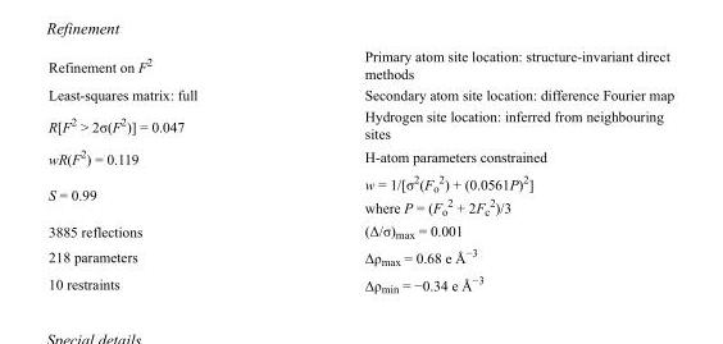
<table><tbody><tr><td>Refinement on F<sup>2</sup></td><td>Primary atom site location: structure-invariant direct methods</td></tr><tr><td>Least-squares matrix: full</td><td>Secondary atom site location: difference Fourier map</td></tr><tr><td>R[F<sup>2</sup> &gt; 2σ(F<sup>2</sup>)] = 0.047</td><td>Hydrogen site location: inferred from neighbouring sites</td></tr><tr><td>wR(F<sup>2</sup>) = 0.119</td><td>H-atom parameters constrained</td></tr><tr><td>S = 0.99</td><td>w = 1/[σ<sup>2</sup>(F<sub>o</sub> <sup>2</sup>) + (0.0561P)<sup>2</sup>] where P = (F<sub>o</sub> <sup>2</sup> + 2F<sub>c</sub> <sup>2</sup>)/3</td></tr><tr><td>3885 reflections</td><td>(Δ/σ)<sub>max</sub> = 0.001</td></tr><tr><td>218 parameters</td><td>Δρ<sub>max</sub> = 0.68 e Å<sup>−3</sup></td></tr><tr><td>10 restraints</td><td>Δρ<sub>min</sub> = −0.34 e Å<sup>−3</sup></td></tr></tbody></table>